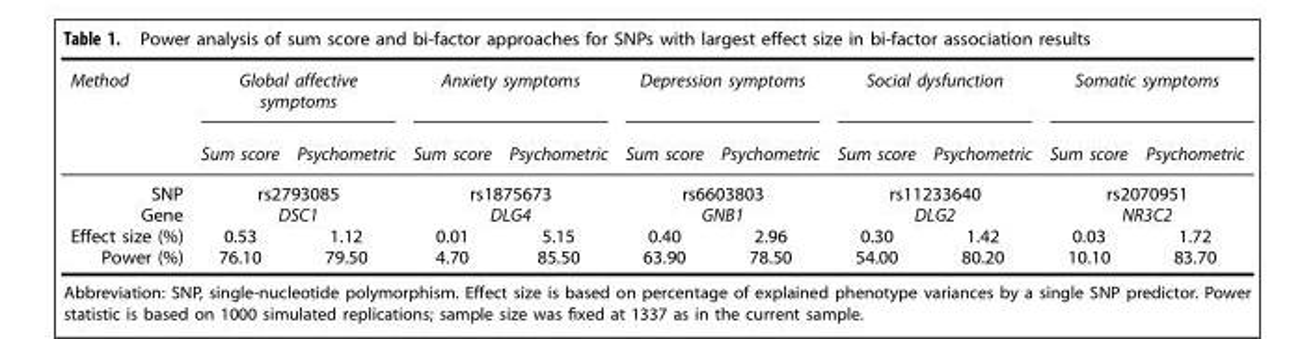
<table><thead><tr><td rowspan="2">Method</td><td colspan="2">Global affective symptoms</td><td colspan="2">Anxiety symptoms</td><td colspan="2">Depression symptoms</td><td colspan="2">Social dysfunction</td><td colspan="2">Somatic symptoms</td></tr><tr><td>Sum score</td><td>Psychometric</td><td>Sum score</td><td>Psychometric</td><td>Sum score</td><td>Psychometric</td><td>Sum score</td><td>Psychometric</td><td>Sum score</td><td>Psychometric</td></tr></thead><tbody><tr><td>SNP</td><td colspan="2">rs2793085</td><td colspan="2">rs1875673</td><td colspan="2">rs6603803</td><td colspan="2">rs11233640</td><td colspan="2">rs2070951</td></tr><tr><td>Gene</td><td colspan="2">DSC1</td><td colspan="2">DLG4</td><td colspan="2">GNB1</td><td colspan="2">DLG2</td><td colspan="2">NR3C2</td></tr><tr><td>Effect size (%)</td><td>0.53</td><td>1.12</td><td>0.01</td><td>5.15</td><td>0.40</td><td>2.96</td><td>0.30</td><td>1.42</td><td>0.03</td><td>1.72</td></tr><tr><td>Power (%)</td><td>76.10</td><td>79.50</td><td>4.70</td><td>85.50</td><td>63.90</td><td>78.50</td><td>54.00</td><td>80.20</td><td>10.10</td><td>83.70</td></tr></tbody></table>